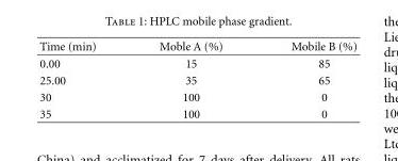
<table><thead><tr><td>Time (min)</td><td>Moble A (%)</td><td>Mobile B (%)</td></tr></thead><tbody><tr><td>0.00</td><td>15</td><td>85</td></tr><tr><td>25.00</td><td>35</td><td>65</td></tr><tr><td>30</td><td>100</td><td>0</td></tr><tr><td>35</td><td>100</td><td>0</td></tr></tbody></table>